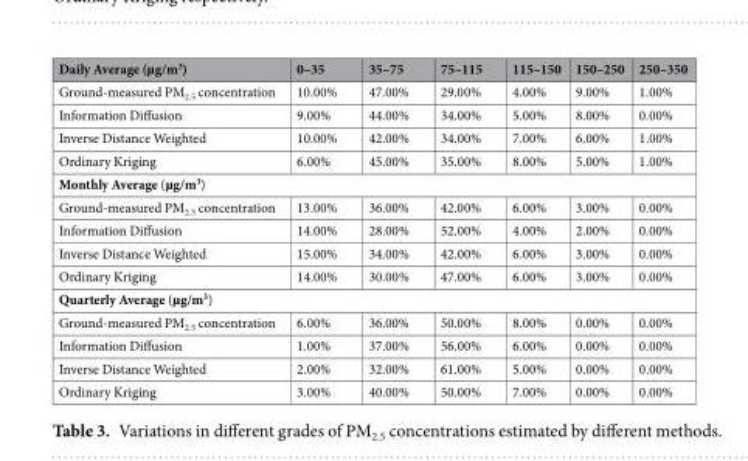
<table><thead><tr><td>Daily Average (µg/m<sup>3</sup>)</td><td>0–35</td><td>35–75</td><td>75–115</td><td>115–150</td><td>150–250</td><td>250–350</td></tr></thead><tbody><tr><td>Ground-measured PM<sub>2.5</sub> concentration</td><td>10.00%</td><td>47.00%</td><td>29.00%</td><td>4.00%</td><td>9.00%</td><td>1.00%</td></tr><tr><td>Information Diffusion</td><td>9.00%</td><td>44.00%</td><td>34.00%</td><td>5.00%</td><td>8.00%</td><td>0.00%</td></tr><tr><td>Inverse Distance Weighted</td><td>10.00%</td><td>42.00%</td><td>34.00%</td><td>7.00%</td><td>6.00%</td><td>1.00%</td></tr><tr><td>Ordinary Kriging</td><td>6.00%</td><td>45.00%</td><td>35.00%</td><td>8.00%</td><td>5.00%</td><td>1.00%</td></tr><tr><td colspan="7">Monthly Average (µg/m<sup>3</sup>)</td></tr><tr><td>Ground-measured PM<sub>2.5</sub> concentration</td><td>13.00%</td><td>36.00%</td><td>42.00%</td><td>6.00%</td><td>3.00%</td><td>0.00%</td></tr><tr><td>Information Diffusion</td><td>14.00%</td><td>28.00%</td><td>52.00%</td><td>4.00%</td><td>2.00%</td><td>0.00%</td></tr><tr><td>Inverse Distance Weighted</td><td>15.00%</td><td>34.00%</td><td>42.00%</td><td>6.00%</td><td>3.00%</td><td>0.00%</td></tr><tr><td>Ordinary Kriging</td><td>14.00%</td><td>30.00%</td><td>47.00%</td><td>6.00%</td><td>3.00%</td><td>0.00%</td></tr><tr><td colspan="7">Quarterly Average (µg/m<sup>3</sup>)</td></tr><tr><td>Ground-measured PM<sub>2.5</sub> concentration</td><td>6.00%</td><td>36.00%</td><td>50.00%</td><td>8.00%</td><td>0.00%</td><td>0.00%</td></tr><tr><td>Information Diffusion</td><td>1.00%</td><td>37.00%</td><td>56.00%</td><td>6.00%</td><td>0.00%</td><td>0.00%</td></tr><tr><td>Inverse Distance Weighted</td><td>2.00%</td><td>32.00%</td><td>61.00%</td><td>5.00%</td><td>0.00%</td><td>0.00%</td></tr><tr><td>Ordinary Kriging</td><td>3.00%</td><td>40.00%</td><td>50.00%</td><td>7.00%</td><td>0.00%</td><td>0.00%</td></tr></tbody></table>